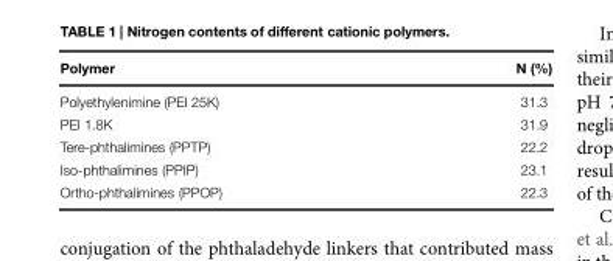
<table><thead><tr><td>Polymer</td><td>N (%)</td></tr></thead><tbody><tr><td>Polyethylenimine (PEI 25K)</td><td>31.3</td></tr><tr><td>PEI 1.8K</td><td>31.9</td></tr><tr><td>Tere-phthalimines (PPTP)</td><td>22.2</td></tr><tr><td>Iso-phthalimines (PPIP)</td><td>23.1</td></tr><tr><td>Ortho-phthalimines (PPOP)</td><td>22.3</td></tr></tbody></table>